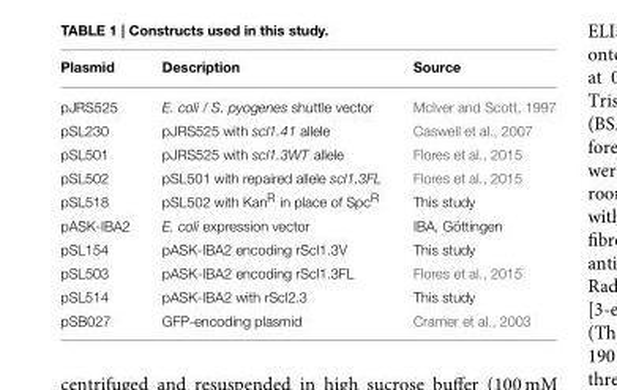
<table><thead><tr><td>Plasmid</td><td>Description</td><td>Source</td></tr></thead><tbody><tr><td>pJRS525</td><td>E. coli / S. pyogenes shuttle vector</td><td>McIver and Scott, 1997</td></tr><tr><td>pSL230</td><td>pJRS525 with scl1.41 allele</td><td>Caswell et al., 2007</td></tr><tr><td>pSL501</td><td>pJRS525 with scl1.3WT allele</td><td>Flores et al., 2015</td></tr><tr><td>pSL502</td><td>pSL501 with repaired allele scl1.3FL</td><td>Flores et al., 2015</td></tr><tr><td>pSL518</td><td>pSL502 with Kan<sup>R</sup> in place of Spc<sup>R</sup></td><td>This study</td></tr><tr><td>pASK-IBA2</td><td>E. coli expression vector</td><td>IBA, Göttingen</td></tr><tr><td>pSL154</td><td>pASK-IBA2 encoding rScl1.3V</td><td>This study</td></tr><tr><td>pSL503</td><td>pASK-IBA2 encoding rScl1.3FL</td><td>Flores et al., 2015</td></tr><tr><td>pSL514</td><td>pASK-IBA2 with rScl2.3</td><td>This study</td></tr><tr><td>pSB027</td><td>GFP-encoding plasmid</td><td>Cramer et al., 2003</td></tr></tbody></table>